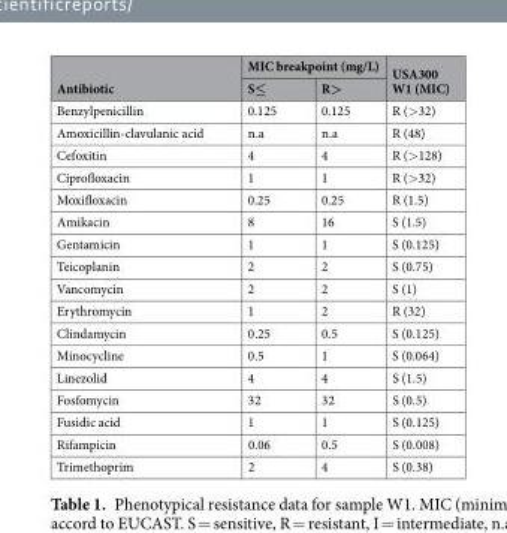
<table><thead><tr><td rowspan="2">Antibiotic</td><td colspan="2">MIC breakpoint (mg/L)</td><td rowspan="2">USA300 W1 (MIC)</td></tr><tr><td>S≤</td><td>R&gt;</td></tr></thead><tbody><tr><td>Benzylpenicillin</td><td>0.125</td><td>0.125</td><td>R (&gt;32)</td></tr><tr><td>Amoxicillin-clavulanic acid</td><td>n.a</td><td>n.a</td><td>R (48)</td></tr><tr><td>Cefoxitin</td><td>4</td><td>4</td><td>R (&gt;128)</td></tr><tr><td>Ciprofloxacin</td><td>1</td><td>1</td><td>R (&gt;32)</td></tr><tr><td>Moxifloxacin</td><td>0.25</td><td>0.25</td><td>R (1.5)</td></tr><tr><td>Amikacin</td><td>8</td><td>16</td><td>S (1.5)</td></tr><tr><td>Gentamicin</td><td>1</td><td>1</td><td>S (0.125)</td></tr><tr><td>Teicoplanin</td><td>2</td><td>2</td><td>S (0.75)</td></tr><tr><td>Vancomycin</td><td>2</td><td>2</td><td>S (1)</td></tr><tr><td>Erythromycin</td><td>1</td><td>2</td><td>R (32)</td></tr><tr><td>Clindamycin</td><td>0.25</td><td>0.5</td><td>S (0.125)</td></tr><tr><td>Minocycline</td><td>0.5</td><td>1</td><td>S (0.064)</td></tr><tr><td>Linezolid</td><td>4</td><td>4</td><td>S (1.5)</td></tr><tr><td>Fosfomycin</td><td>32</td><td>32</td><td>S (0.5)</td></tr><tr><td>Fusidic acid</td><td>1</td><td>1</td><td>S (0.125)</td></tr><tr><td>Rifampicin</td><td>0.06</td><td>0.5</td><td>S (0.008)</td></tr><tr><td>Trimethoprim</td><td>2</td><td>4</td><td>S (0.38)</td></tr></tbody></table>